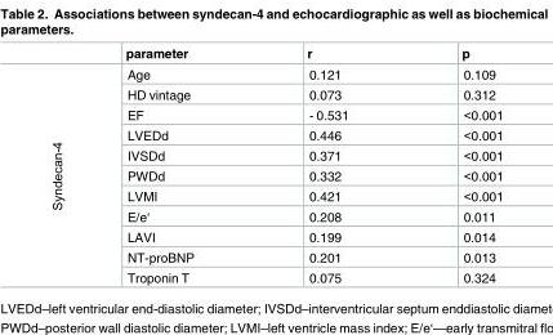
<table><thead><tr><td></td><td>parameter</td><td>r</td><td>p</td></tr></thead><tbody><tr><td rowspan="11">Syndecan-4</td><td>Age</td><td>0.121</td><td>0.109</td></tr><tr><td>HD vintage</td><td>0.073</td><td>0.312</td></tr><tr><td>EF</td><td>- 0.531</td><td>&lt;0.001</td></tr><tr><td>LVEDd</td><td>0.446</td><td>&lt;0.001</td></tr><tr><td>IVSDd</td><td>0.371</td><td>&lt;0.001</td></tr><tr><td>PWDd</td><td>0.332</td><td>&lt;0.001</td></tr><tr><td>LVMI</td><td>0.421</td><td>&lt;0.001</td></tr><tr><td>E/e‘</td><td>0.208</td><td>0.011</td></tr><tr><td>LAVI</td><td>0.199</td><td>0.014</td></tr><tr><td>NT-proBNP</td><td>0.201</td><td>0.013</td></tr><tr><td>Troponin T</td><td>0.075</td><td>0.324</td></tr></tbody></table>